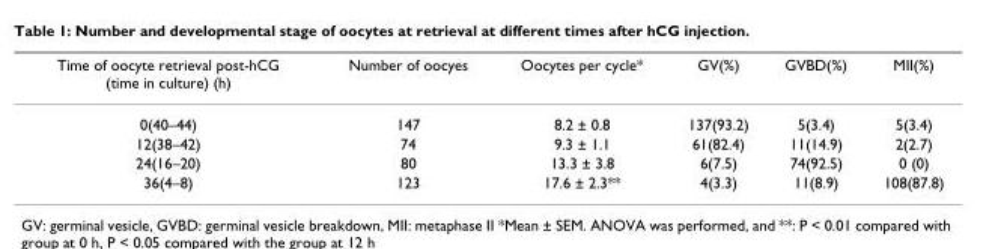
<table><thead><tr><td>Time of oocyte retrieval post-hCG (time in culture) (h)</td><td>Number of oocyes</td><td>Oocytes per cycle*</td><td>GV(%)</td><td>GVBD(%)</td><td>MII(%)</td></tr></thead><tbody><tr><td>0(40–44)</td><td>147</td><td>8.2 ± 0.8</td><td>137(93.2)</td><td>5(3.4)</td><td>5(3.4)</td></tr><tr><td>12(38–42)</td><td>74</td><td>9.3 ± 1.1</td><td>61(82.4)</td><td>11(14.9)</td><td>2(2.7)</td></tr><tr><td>24(16–20)</td><td>80</td><td>13.3 ± 3.8</td><td>6(7.5)</td><td>74(92.5)</td><td>0 (0)</td></tr><tr><td>36(4–8)</td><td>123</td><td>17.6 ± 2.3**</td><td>4(3.3)</td><td>11(8.9)</td><td>108(87.8)</td></tr></tbody></table>